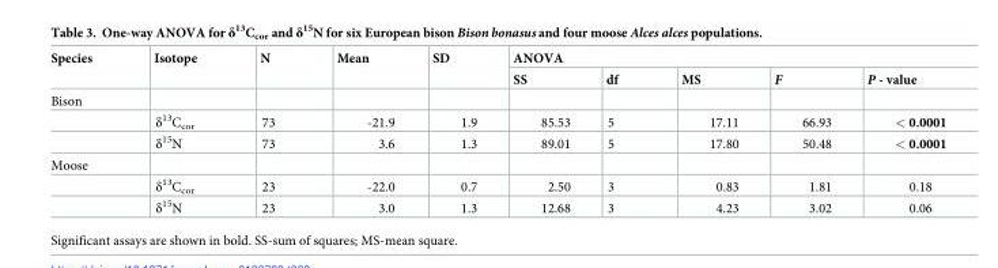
<table><thead><tr><td rowspan="2">Species</td><td rowspan="2">Isotope</td><td rowspan="2">N</td><td rowspan="2">Mean</td><td rowspan="2">SD</td><td colspan="5">ANOVA</td></tr><tr><td>SS</td><td>df</td><td>MS</td><td>F</td><td>P - value</td></tr></thead><tbody><tr><td colspan="10">Bison</td></tr><tr><td></td><td>δ<sup>13</sup>C<sub>cor</sub></td><td>73</td><td>-21.9</td><td>1.9</td><td>85.53</td><td>5</td><td>17.11</td><td>66.93</td><td>&lt; 0.0001</td></tr><tr><td></td><td>δ<sup>15</sup>N</td><td>73</td><td>3.6</td><td>1.3</td><td>89.01</td><td>5</td><td>17.80</td><td>50.48</td><td>&lt; 0.0001</td></tr><tr><td colspan="10">Moose</td></tr><tr><td></td><td>δ<sup>13</sup>C<sub>cor</sub></td><td>23</td><td>-22.0</td><td>0.7</td><td>2.50</td><td>3</td><td>0.83</td><td>1.81</td><td>0.18</td></tr><tr><td></td><td>δ<sup>15</sup>N</td><td>23</td><td>3.0</td><td>1.3</td><td>12.68</td><td>3</td><td>4.23</td><td>3.02</td><td>0.06</td></tr></tbody></table>